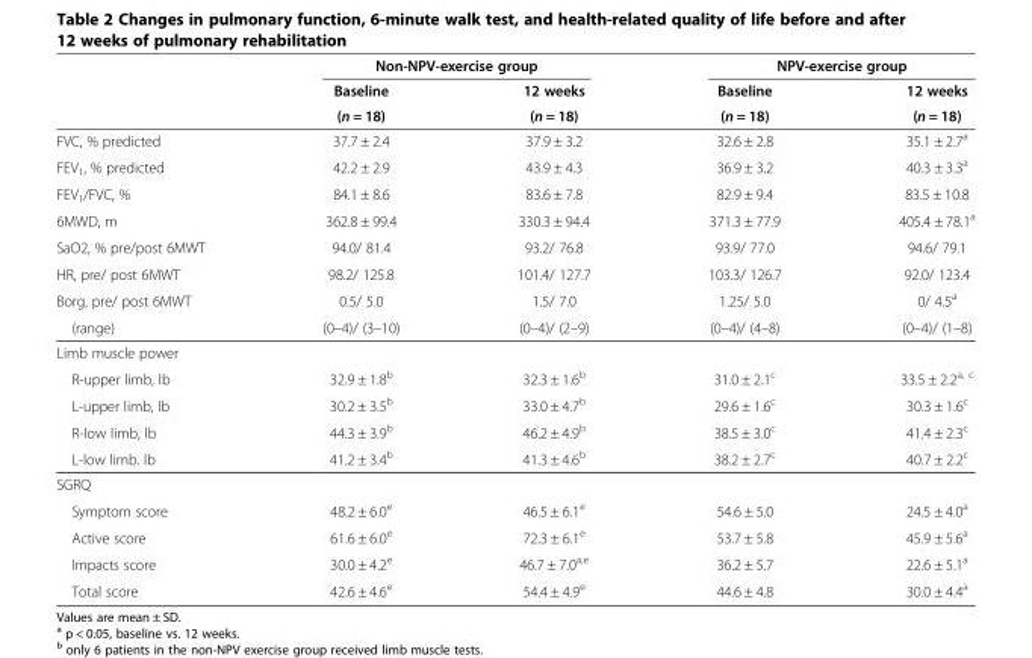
<table><thead><tr><td rowspan="3"></td><td colspan="2">Non-NPV-exercise group</td><td colspan="2">NPV-exercise group</td></tr><tr><td rowspan="2">Baseline (n = 18)</td><td rowspan="2">12 weeks (n = 18)</td><td rowspan="2">Baseline (n = 18)</td><td rowspan="2">12 weeks (n = 18)</td></tr><tr></tr></thead><tbody><tr><td>FVC, % predicted</td><td>37.7 ± 2.4</td><td>37.9 ± 3.2</td><td>32.6 ± 2.8</td><td>35.1 ± 2.7<sup>a</sup></td></tr><tr><td>FEV<sub>1</sub>, % predicted</td><td>42.2 ± 2.9</td><td>43.9 ± 4.3</td><td>36.9 ± 3.2</td><td>40.3 ± 3.3<sup>a</sup></td></tr><tr><td>FEV<sub>1</sub>/FVC, %</td><td>84.1 ± 8.6</td><td>83.6 ± 7.8</td><td>82.9 ± 9.4</td><td>83.5 ± 10.8</td></tr><tr><td>6MWD, m</td><td>362.8 ± 99.4</td><td>330.3 ± 94.4</td><td>371.3 ± 77.9</td><td>405.4 ± 78.1<sup>a</sup></td></tr><tr><td>SaO2, % pre/post 6MWT</td><td>94.0/ 81.4</td><td>93.2/ 76.8</td><td>93.9/ 77.0</td><td>94.6/ 79.1</td></tr><tr><td>HR, pre/ post 6MWT</td><td>98.2/ 125.8</td><td>101.4/ 127.7</td><td>103.3/ 126.7</td><td>92.0/ 123.4</td></tr><tr><td>Borg, pre/ post 6MWT</td><td>0.5/ 5.0</td><td>1.5/ 7.0</td><td>1.25/ 5.0</td><td>0/ 4.5<sup>a</sup></td></tr><tr><td>(range)</td><td>(0–4)/ (3–10)</td><td>(0–4)/ (2–9)</td><td>(0–4)/ (4–8)</td><td>(0–4)/ (1–8)</td></tr><tr><td colspan="5">Limb muscle power</td></tr><tr><td>R-upper limb, lb</td><td>32.9 ± 1.8<sup>b</sup></td><td>32.3 ± 1.6<sup>b</sup></td><td>31.0 ± 2.1<sup>c</sup></td><td>33.5 ± 2.2<sup>a, c</sup></td></tr><tr><td>L-upper limb, lb</td><td>30.2 ± 3.5<sup>b</sup></td><td>33.0 ± 4.7<sup>b</sup></td><td>29.6 ± 1.6<sup>c</sup></td><td>30.3 ± 1.6<sup>c</sup></td></tr><tr><td>R-low limb, lb</td><td>44.3 ± 3.9<sup>b</sup></td><td>46.2 ± 4.9<sup>b</sup></td><td>38.5 ± 3.0<sup>c</sup></td><td>41.4 ± 2.3<sup>c</sup></td></tr><tr><td>L-low limb. lb</td><td>41.2 ± 3.4<sup>b</sup></td><td>41.3 ± 4.6<sup>b</sup></td><td>38.2 ± 2.7<sup>c</sup></td><td>40.7 ± 2.2<sup>c</sup></td></tr><tr><td colspan="5">SGRQ</td></tr><tr><td>Symptom score</td><td>48.2 ± 6.0<sup>e</sup></td><td>46.5 ± 6.1<sup>e</sup></td><td>54.6 ± 5.0</td><td>24.5 ± 4.0<sup>a</sup></td></tr><tr><td>Active score</td><td>61.6 ± 6.0<sup>e</sup></td><td>72.3 ± 6.1<sup>e</sup></td><td>53.7 ± 5.8</td><td>45.9 ± 5.6<sup>a</sup></td></tr><tr><td>Impacts score</td><td>30.0 ± 4.2<sup>e</sup></td><td>46.7 ± 7.0<sup>a,e</sup></td><td>36.2 ± 5.7</td><td>22.6 ± 5.1<sup>a</sup></td></tr><tr><td>Total score</td><td>42.6 ± 4.6<sup>e</sup></td><td>54.4 ± 4.9<sup>e</sup></td><td>44.6 ± 4.8</td><td>30.0 ± 4.4<sup>a</sup></td></tr></tbody></table>